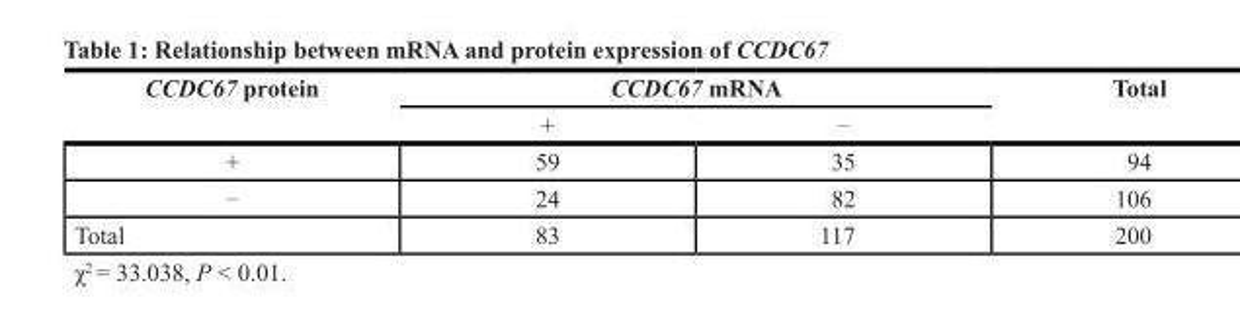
<table><thead><tr><td rowspan="2">CCDC67 protein</td><td colspan="2">CCDC67 mRNA</td><td rowspan="2">Total</td></tr><tr><td>+</td><td>−</td></tr></thead><tbody><tr><td>+</td><td>59</td><td>35</td><td>94</td></tr><tr><td>−</td><td>24</td><td>82</td><td>106</td></tr><tr><td>Total</td><td>83</td><td>117</td><td>200</td></tr></tbody></table>